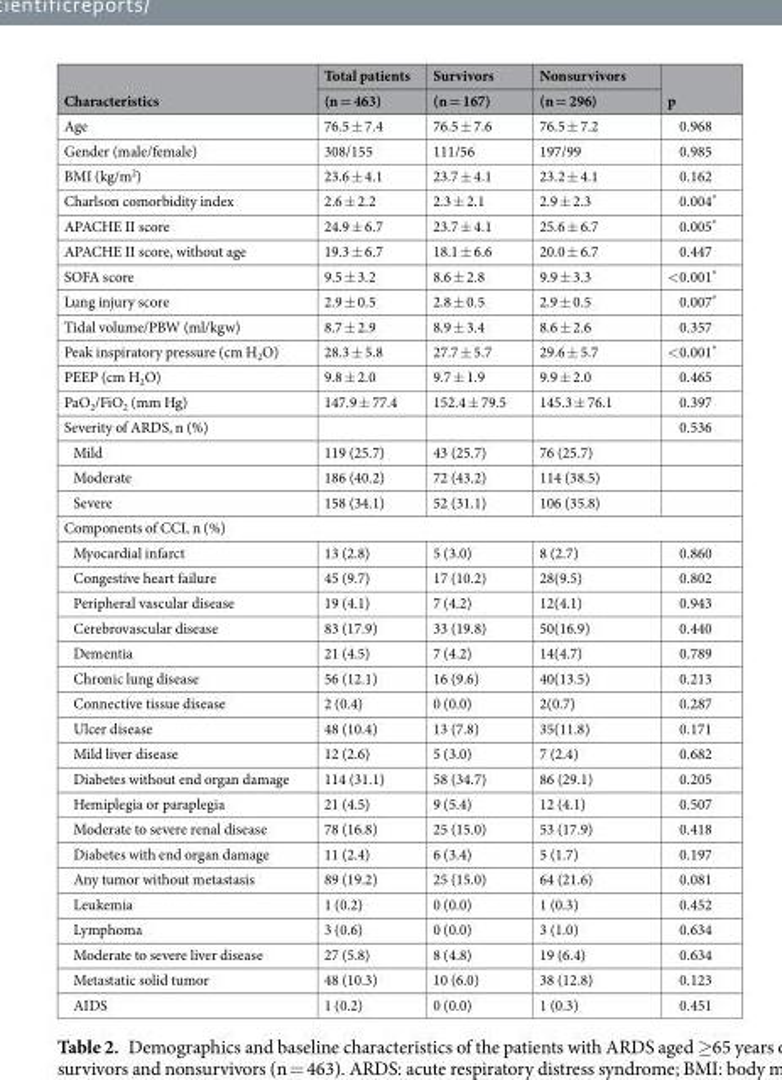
<table><thead><tr><td rowspan="2">Characteristics</td><td rowspan="2">Total patients (n = 463)</td><td rowspan="2">Survivors (n = 167)</td><td rowspan="2">Nonsurvivors (n = 296)</td><td rowspan="2">p</td></tr><tr></tr></thead><tbody><tr><td>Age</td><td>76.5 ± 7.4</td><td>76.5 ± 7.6</td><td>76.5 ± 7.2</td><td>0.968</td></tr><tr><td>Gender (male/female)</td><td>308/155</td><td>111/56</td><td>197/99</td><td>0.985</td></tr><tr><td>BMI (kg/m<sup>2</sup>)</td><td>23.6 ± 4.1</td><td>23.7 ± 4.1</td><td>23.2 ± 4.1</td><td>0.162</td></tr><tr><td>Charlson comorbidity index</td><td>2.6 ± 2.2</td><td>2.3 ± 2.1</td><td>2.9 ± 2.3</td><td>0.004*</td></tr><tr><td>APACHE II score</td><td>24.9 ± 6.7</td><td>23.7 ± 4.1</td><td>25.6 ± 6.7</td><td>0.005*</td></tr><tr><td>APACHE II score, without age</td><td>19.3 ± 6.7</td><td>18.1 ± 6.6</td><td>20.0 ± 6.7</td><td>0.447</td></tr><tr><td>SOFA score</td><td>9.5 ± 3.2</td><td>8.6 ± 2.8</td><td>9.9 ± 3.3</td><td>&lt;0.001*</td></tr><tr><td>Lung injury score</td><td>2.9 ± 0.5</td><td>2.8 ± 0.5</td><td>2.9 ± 0.5</td><td>0.007*</td></tr><tr><td>Tidal volume/PBW (ml/kgw)</td><td>8.7 ± 2.9</td><td>8.9 ± 3.4</td><td>8.6 ± 2.6</td><td>0.357</td></tr><tr><td>Peak inspiratory pressure (cm H<sub>2</sub>O)</td><td>28.3 ± 5.8</td><td>27.7 ± 5.7</td><td>29.6 ± 5.7</td><td>&lt;0.001*</td></tr><tr><td>PEEP (cm H<sub>2</sub>O)</td><td>9.8 ± 2.0</td><td>9.7 ± 1.9</td><td>9.9 ± 2.0</td><td>0.465</td></tr><tr><td>PaO<sub>2</sub>/FiO<sub>2</sub> (mm Hg)</td><td>147.9 ± 77.4</td><td>152.4 ± 79.5</td><td>145.3 ± 76.1</td><td>0.397</td></tr><tr><td>Severity of ARDS, n (%)</td><td></td><td></td><td></td><td>0.536</td></tr><tr><td>Mild</td><td>119 (25.7)</td><td>43 (25.7)</td><td>76 (25.7)</td><td></td></tr><tr><td>Moderate</td><td>186 (40.2)</td><td>72 (43.2)</td><td>114 (38.5)</td><td></td></tr><tr><td>Severe</td><td>158 (34.1)</td><td>52 (31.1)</td><td>106 (35.8)</td><td></td></tr><tr><td colspan="5">Components of CCI, n (%)</td></tr><tr><td>Myocardial infarct</td><td>13 (2.8)</td><td>5 (3.0)</td><td>8 (2.7)</td><td>0.860</td></tr><tr><td>Congestive heart failure</td><td>45 (9.7)</td><td>17 (10.2)</td><td>28(9.5)</td><td>0.802</td></tr><tr><td>Peripheral vascular disease</td><td>19 (4.1)</td><td>7 (4.2)</td><td>12(4.1)</td><td>0.943</td></tr><tr><td>Cerebrovascular disease</td><td>83 (17.9)</td><td>33 (19.8)</td><td>50(16.9)</td><td>0.440</td></tr><tr><td>Dementia</td><td>21 (4.5)</td><td>7 (4.2)</td><td>14(4.7)</td><td>0.789</td></tr><tr><td>Chronic lung disease</td><td>56 (12.1)</td><td>16 (9.6)</td><td>40(13.5)</td><td>0.213</td></tr><tr><td>Connective tissue disease</td><td>2 (0.4)</td><td>0 (0.0)</td><td>2(0.7)</td><td>0.287</td></tr><tr><td>Ulcer disease</td><td>48 (10.4)</td><td>13 (7.8)</td><td>35(11.8)</td><td>0.171</td></tr><tr><td>Mild liver disease</td><td>12 (2.6)</td><td>5 (3.0)</td><td>7 (2.4)</td><td>0.682</td></tr><tr><td>Diabetes without end organ damage</td><td>114 (31.1)</td><td>58 (34.7)</td><td>86 (29.1)</td><td>0.205</td></tr><tr><td>Hemiplegia or paraplegia</td><td>21 (4.5)</td><td>9 (5.4)</td><td>12 (4.1)</td><td>0.507</td></tr><tr><td>Moderate to severe renal disease</td><td>78 (16.8)</td><td>25 (15.0)</td><td>53 (17.9)</td><td>0.418</td></tr><tr><td>Diabetes with end organ damage</td><td>11 (2.4)</td><td>6 (3.4)</td><td>5 (1.7)</td><td>0.197</td></tr><tr><td>Any tumor without metastasis</td><td>89 (19.2)</td><td>25 (15.0)</td><td>64 (21.6)</td><td>0.081</td></tr><tr><td>Leukemia</td><td>1 (0.2)</td><td>0 (0.0)</td><td>1 (0.3)</td><td>0.452</td></tr><tr><td>Lymphoma</td><td>3 (0.6)</td><td>0 (0.0)</td><td>3 (1.0)</td><td>0.634</td></tr><tr><td>Moderate to severe liver disease</td><td>27 (5.8)</td><td>8 (4.8)</td><td>19 (6.4)</td><td>0.634</td></tr><tr><td>Metastatic solid tumor</td><td>48 (10.3)</td><td>10 (6.0)</td><td>38 (12.8)</td><td>0.123</td></tr><tr><td>AIDS</td><td>1 (0.2)</td><td>0 (0.0)</td><td>1 (0.3)</td><td>0.451</td></tr></tbody></table>